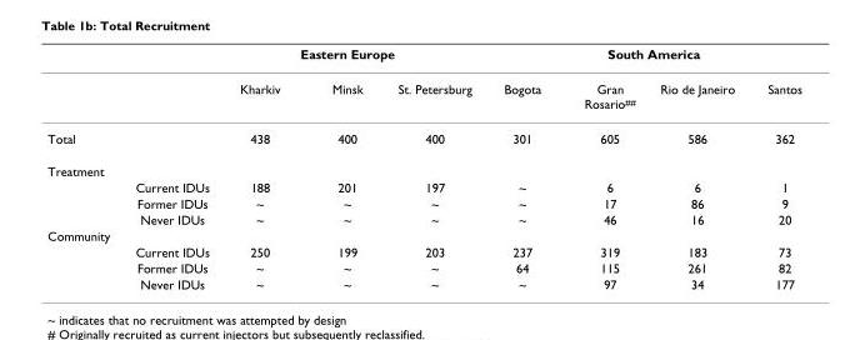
<table><thead><tr><td rowspan="2"></td><td rowspan="2"></td><td colspan="3">Eastern Europe</td><td colspan="4">South America</td></tr><tr><td>Kharkiv</td><td>Minsk</td><td>St. Petersburg</td><td>Bogota</td><td>Gran Rosario##</td><td>Rio de Janeiro</td><td>Santos</td></tr></thead><tbody><tr><td>Total</td><td></td><td>438</td><td>400</td><td>400</td><td>301</td><td>605</td><td>586</td><td>362</td></tr><tr><td colspan="9">Treatment</td></tr><tr><td></td><td>Current IDUs</td><td>188</td><td>201</td><td>197</td><td>~</td><td>6</td><td>6</td><td>1</td></tr><tr><td></td><td>Former IDUs</td><td>~</td><td>~</td><td>~</td><td>~</td><td>17</td><td>86</td><td>9</td></tr><tr><td></td><td>Never IDUs</td><td>~</td><td>~</td><td>~</td><td>~</td><td>46</td><td>16</td><td>20</td></tr><tr><td colspan="9">Community</td></tr><tr><td></td><td>Current IDUs</td><td>250</td><td>199</td><td>203</td><td>237</td><td>319</td><td>183</td><td>73</td></tr><tr><td></td><td>Former IDUs</td><td>~</td><td>~</td><td>~</td><td>64</td><td>115</td><td>261</td><td>82</td></tr><tr><td></td><td>Never IDUs</td><td>~</td><td>~</td><td>~</td><td>~</td><td>97</td><td>34</td><td>177</td></tr></tbody></table>